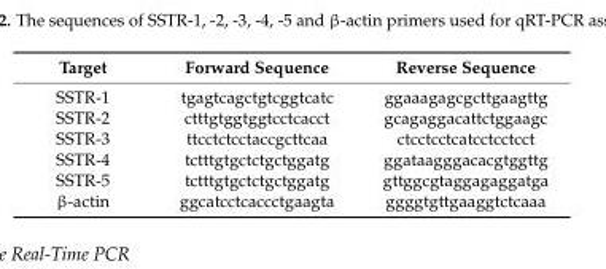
<table><thead><tr><td>Target</td><td>Forward Sequence</td><td>Reverse Sequence</td></tr></thead><tbody><tr><td>SSTR-1</td><td>tgagtcagctgtcggtcatc</td><td>ggaaagagcgcttgaagttg</td></tr><tr><td>SSTR-2</td><td>ctttgtggtggtcctcacct</td><td>gcagaggacattctggaagc</td></tr><tr><td>SSTR-3</td><td>ttcctctcctaccgcttcaa</td><td>ctcctcctcatcctcctcct</td></tr><tr><td>SSTR-4</td><td>tctttgtgctctgctggatg</td><td>ggataagggacacgtggttg</td></tr><tr><td>SSTR-5</td><td>tctttgtgctctgctggatg</td><td>gttggcgtaggagaggatga</td></tr><tr><td>β-actin</td><td>ggcatcctcaccctgaagta</td><td>ggggtgttgaaggtctcaaa</td></tr></tbody></table>